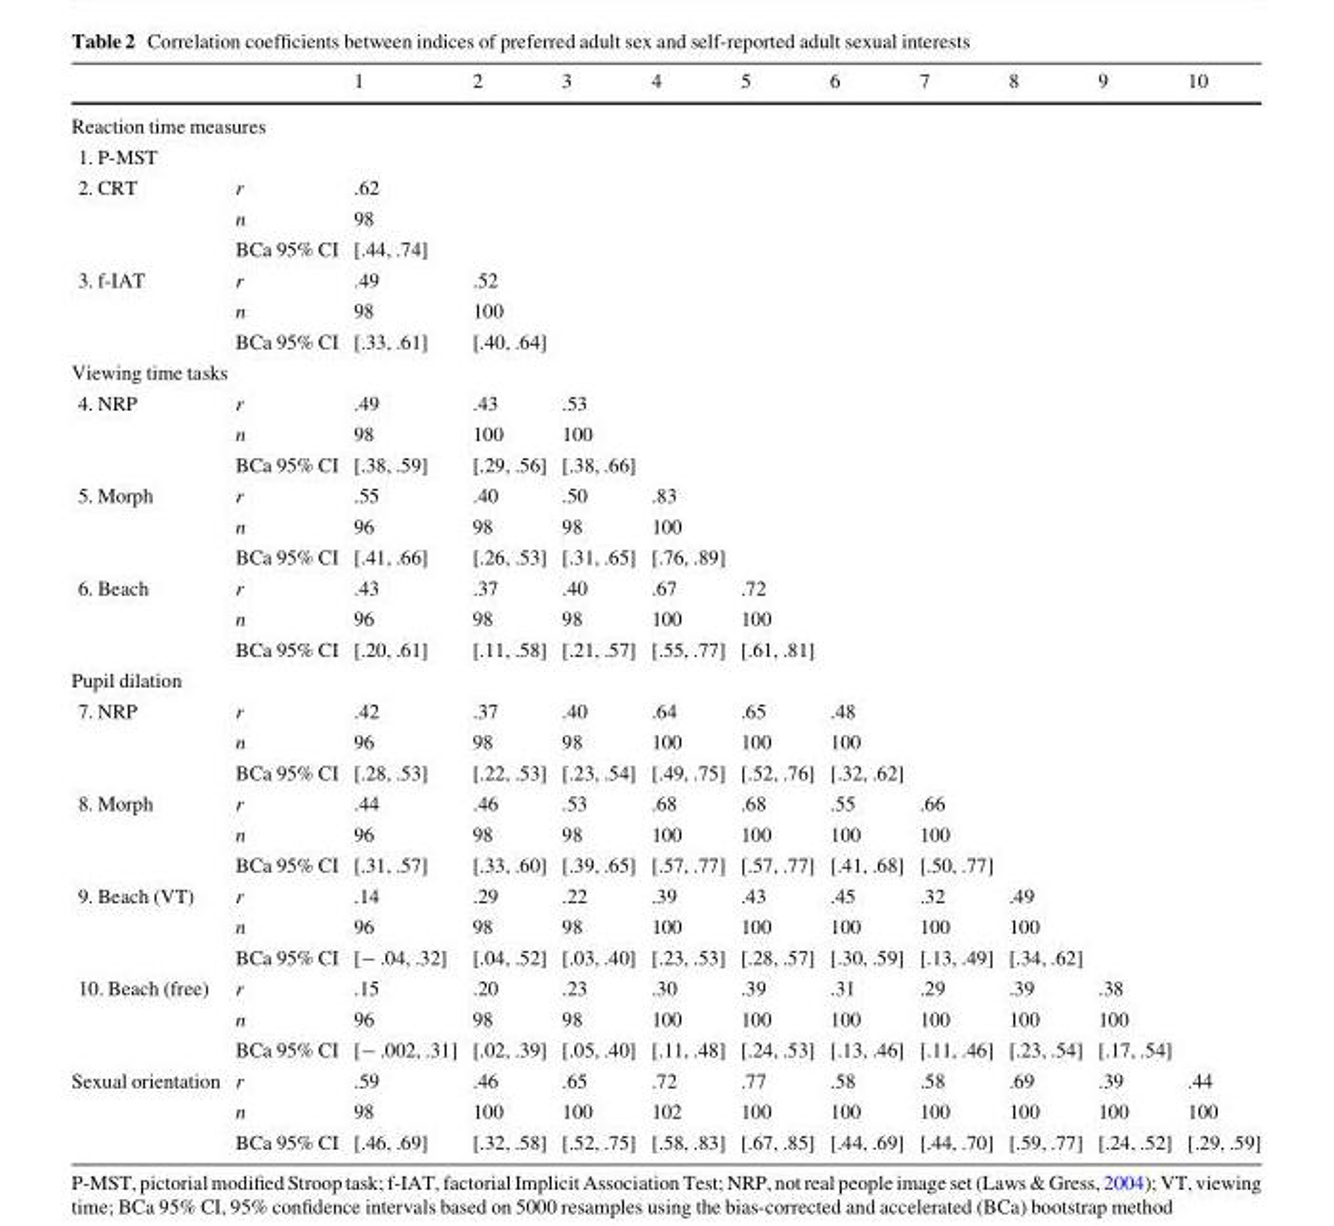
<table><thead><tr><td></td><td></td><td>1</td><td>2</td><td>3</td><td>4</td><td>5</td><td>6</td><td>7</td><td>8</td><td>9</td><td>10</td></tr></thead><tbody><tr><td colspan="12">Reaction time measures</td></tr><tr><td colspan="12">1. P-MST</td></tr><tr><td rowspan="3">2. CRT</td><td>r</td><td>.62</td><td></td><td></td><td></td><td></td><td></td><td></td><td></td><td></td><td></td></tr><tr><td>n</td><td>98</td><td></td><td></td><td></td><td></td><td></td><td></td><td></td><td></td><td></td></tr><tr><td>BCa 95% CI</td><td>[.44, .74]</td><td></td><td></td><td></td><td></td><td></td><td></td><td></td><td></td><td></td></tr><tr><td rowspan="3">3. f-IAT</td><td>r</td><td>.49</td><td>.52</td><td></td><td></td><td></td><td></td><td></td><td></td><td></td><td></td></tr><tr><td>n</td><td>98</td><td>100</td><td></td><td></td><td></td><td></td><td></td><td></td><td></td><td></td></tr><tr><td>BCa 95% CI</td><td>[.33, .61]</td><td>[.40, .64]</td><td></td><td></td><td></td><td></td><td></td><td></td><td></td><td></td></tr><tr><td colspan="12">Viewing time tasks</td></tr><tr><td rowspan="3">4. NRP</td><td>r</td><td>.49</td><td>.43</td><td>.53</td><td></td><td></td><td></td><td></td><td></td><td></td><td></td></tr><tr><td>n</td><td>98</td><td>100</td><td>100</td><td></td><td></td><td></td><td></td><td></td><td></td><td></td></tr><tr><td>BCa 95% CI</td><td>[.38, .59]</td><td>[.29, .56]</td><td>[.38, .66]</td><td></td><td></td><td></td><td></td><td></td><td></td><td></td></tr><tr><td rowspan="3">5. Morph</td><td>r</td><td>.55</td><td>.40</td><td>.50</td><td>.83</td><td></td><td></td><td></td><td></td><td></td><td></td></tr><tr><td>n</td><td>96</td><td>98</td><td>98</td><td>100</td><td></td><td></td><td></td><td></td><td></td><td></td></tr><tr><td>BCa 95% CI</td><td>[.41, .66]</td><td>[.26, .53]</td><td>[.31, .65]</td><td>[.76, .89]</td><td></td><td></td><td></td><td></td><td></td><td></td></tr><tr><td rowspan="3">6. Beach</td><td>r</td><td>.43</td><td>.37</td><td>.40</td><td>.67</td><td>.72</td><td></td><td></td><td></td><td></td><td></td></tr><tr><td>n</td><td>96</td><td>98</td><td>98</td><td>100</td><td>100</td><td></td><td></td><td></td><td></td><td></td></tr><tr><td>BCa 95% CI</td><td>[.20, .61]</td><td>[.11, .58]</td><td>[.21, .57]</td><td>[.55, .77]</td><td>[.61, .81]</td><td></td><td></td><td></td><td></td><td></td></tr><tr><td colspan="12">Pupil dilation</td></tr><tr><td rowspan="3">7. NRP</td><td>r</td><td>.42</td><td>.37</td><td>.40</td><td>.64</td><td>.65</td><td>.48</td><td></td><td></td><td></td><td></td></tr><tr><td>n</td><td>96</td><td>98</td><td>98</td><td>100</td><td>100</td><td>100</td><td></td><td></td><td></td><td></td></tr><tr><td>BCa 95% CI</td><td>[.28, .53]</td><td>[.22, .53]</td><td>[.23, .54]</td><td>[.49, .75]</td><td>[.52, .76]</td><td>[.32, .62]</td><td></td><td></td><td></td><td></td></tr><tr><td rowspan="3">8. Morph</td><td>r</td><td>.44</td><td>.46</td><td>.53</td><td>.68</td><td>.68</td><td>.55</td><td>.66</td><td></td><td></td><td></td></tr><tr><td>n</td><td>96</td><td>98</td><td>98</td><td>100</td><td>100</td><td>100</td><td>100</td><td></td><td></td><td></td></tr><tr><td>BCa 95% CI</td><td>[.31, .57]</td><td>[.33, .60]</td><td>[.39, .65]</td><td>[.57, .77]</td><td>[.57, .77]</td><td>[.41, .68]</td><td>[.50, .77]</td><td></td><td></td><td></td></tr><tr><td rowspan="3">9. Beach (VT)</td><td>r</td><td>.14</td><td>.29</td><td>.22</td><td>.39</td><td>.43</td><td>.45</td><td>.32</td><td>.49</td><td></td><td></td></tr><tr><td>n</td><td>96</td><td>98</td><td>98</td><td>100</td><td>100</td><td>100</td><td>100</td><td>100</td><td></td><td></td></tr><tr><td>BCa 95% CI</td><td>[- .04, .32]</td><td>[.04, .52]</td><td>[.03, .40]</td><td>[.23, .53]</td><td>[.28, .57]</td><td>[.30, .59]</td><td>[.13, .49]</td><td>[.34, .62]</td><td></td><td></td></tr><tr><td rowspan="3">10. Beach (free)</td><td>r</td><td>.15</td><td>.20</td><td>.23</td><td>.30</td><td>.39</td><td>.31</td><td>.29</td><td>.39</td><td>.38</td><td></td></tr><tr><td>n</td><td>96</td><td>98</td><td>98</td><td>100</td><td>100</td><td>100</td><td>100</td><td>100</td><td>100</td><td></td></tr><tr><td>BCa 95% CI</td><td>[- .002, .31]</td><td>[.02, .39]</td><td>[.05, .40]</td><td>[.11, .48]</td><td>[.24, .53]</td><td>[.13, .46]</td><td>[.11, .46]</td><td>[.23, .54]</td><td>[.17, .54]</td><td></td></tr><tr><td rowspan="3">Sexual orientation</td><td>r</td><td>.59</td><td>.46</td><td>.65</td><td>.72</td><td>.77</td><td>.58</td><td>.58</td><td>.69</td><td>.39</td><td>.44</td></tr><tr><td>n</td><td>98</td><td>100</td><td>100</td><td>102</td><td>100</td><td>100</td><td>100</td><td>100</td><td>100</td><td>100</td></tr><tr><td>BCa 95% CI</td><td>[.46, .69]</td><td>[.32, .58]</td><td>[.52, .75]</td><td>[.58, .83]</td><td>[.67, .85]</td><td>[.44, .69]</td><td>[.44, .70]</td><td>[.59, .77]</td><td>[.24, .52]</td><td>[.29, .59]</td></tr></tbody></table>